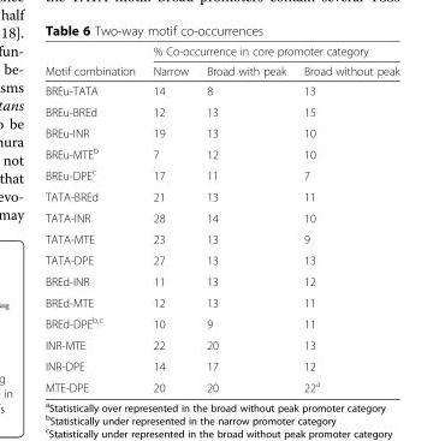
<table><thead><tr><td rowspan="2">Motif combination</td><td colspan="3">% Co-occurrence in core promoter category</td></tr><tr><td>Narrow</td><td>Broad with peak</td><td>Broad without peak</td></tr></thead><tbody><tr><td>BREu-TATA</td><td>14</td><td>8</td><td>13</td></tr><tr><td>BREu-BREd</td><td>12</td><td>13</td><td>15</td></tr><tr><td>BREu-INR</td><td>19</td><td>13</td><td>10</td></tr><tr><td>BREu-MTE<sup>b</sup></td><td>7</td><td>12</td><td>10</td></tr><tr><td>BREu-DPE<sup>c</sup></td><td>17</td><td>11</td><td>7</td></tr><tr><td>TATA-BREd</td><td>21</td><td>13</td><td>11</td></tr><tr><td>TATA-INR</td><td>28</td><td>14</td><td>10</td></tr><tr><td>TATA-MTE</td><td>23</td><td>13</td><td>9</td></tr><tr><td>TATA-DPE</td><td>27</td><td>13</td><td>13</td></tr><tr><td>BREd-INR</td><td>11</td><td>13</td><td>12</td></tr><tr><td>BREd-MTE</td><td>12</td><td>13</td><td>11</td></tr><tr><td>BREd-DPE<sup>b,c</sup></td><td>10</td><td>9</td><td>11</td></tr><tr><td>INR-MTE</td><td>22</td><td>20</td><td>13</td></tr><tr><td>INR-DPE</td><td>14</td><td>17</td><td>12</td></tr><tr><td>MTE-DPE</td><td>20</td><td>20</td><td>22<sup>a</sup></td></tr></tbody></table>